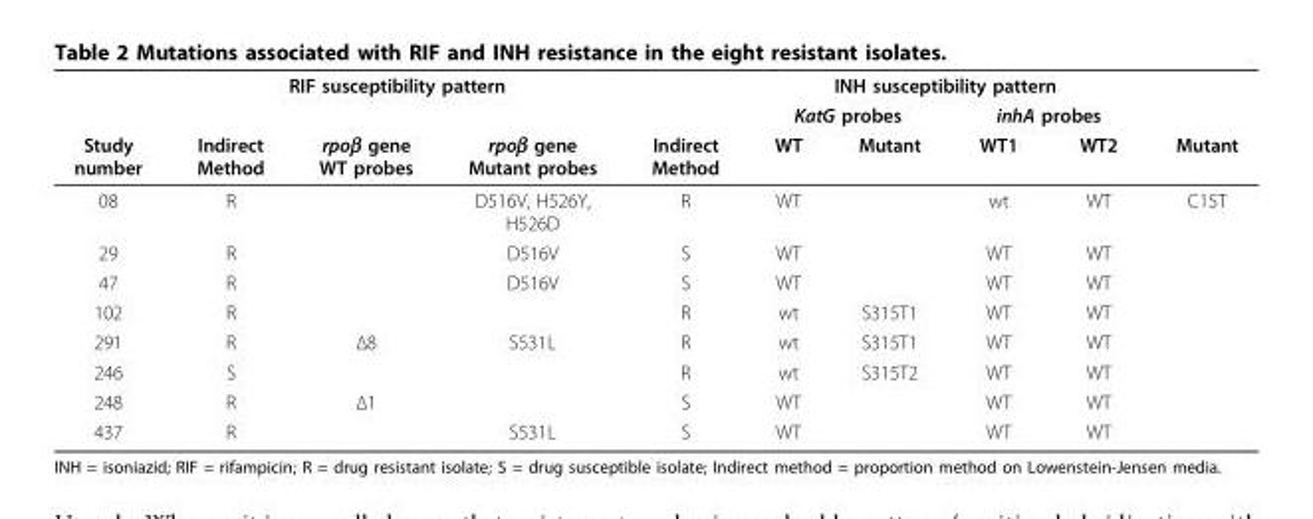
<table><thead><tr><td rowspan="3">Study number</td><td colspan="3">RIF susceptibility pattern</td><td colspan="6">INH susceptibility pattern</td></tr><tr><td rowspan="2">Indirect Method</td><td rowspan="2">rpoβ gene WT probes</td><td rowspan="2">rpoβ gene Mutant probes</td><td rowspan="2">Indirect Method</td><td colspan="2">KatG probes</td><td colspan="2">inhA probes</td><td rowspan="2">Mutant</td></tr><tr><td>WT</td><td>Mutant</td><td>WT1</td><td>WT2</td></tr></thead><tbody><tr><td>08</td><td>R</td><td></td><td>D516V, H526Y, H526D</td><td>R</td><td>WT</td><td></td><td>wt</td><td>WT</td><td>C15T</td></tr><tr><td>29</td><td>R</td><td></td><td>D516V</td><td>S</td><td>WT</td><td></td><td>WT</td><td>WT</td><td></td></tr><tr><td>47</td><td>R</td><td></td><td>D516V</td><td>S</td><td>WT</td><td></td><td>WT</td><td>WT</td><td></td></tr><tr><td>102</td><td>R</td><td></td><td></td><td>R</td><td>wt</td><td>S315T1</td><td>WT</td><td>WT</td><td></td></tr><tr><td>291</td><td>R</td><td>Δ8</td><td>S531L</td><td>R</td><td>wt</td><td>S315T1</td><td>WT</td><td>WT</td><td></td></tr><tr><td>246</td><td>S</td><td></td><td></td><td>R</td><td>wt</td><td>S315T2</td><td>WT</td><td>WT</td><td></td></tr><tr><td>248</td><td>R</td><td>Δ1</td><td></td><td>S</td><td>WT</td><td></td><td>WT</td><td>WT</td><td></td></tr><tr><td>437</td><td>R</td><td></td><td>S531L</td><td>S</td><td>WT</td><td></td><td>WT</td><td>WT</td><td></td></tr></tbody></table>